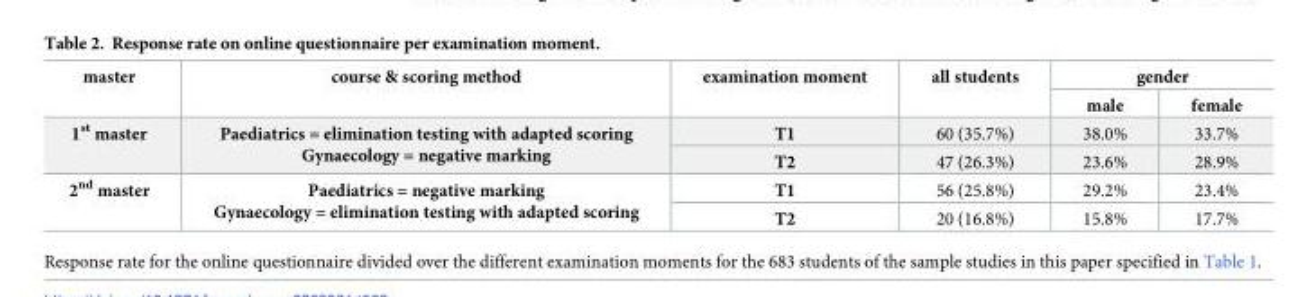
<table><thead><tr><td rowspan="2">master</td><td rowspan="2">course &amp; scoring method</td><td rowspan="2">examination moment</td><td rowspan="2">all students</td><td colspan="2">gender</td></tr><tr><td>male</td><td>female</td></tr></thead><tbody><tr><td rowspan="2">1<sup>st</sup> master</td><td rowspan="2">Paediatrics = elimination testing with adapted scoring Gynaecology = negative marking</td><td>T1</td><td>60 (35.7%)</td><td>38.0%</td><td>33.7%</td></tr><tr><td>T2</td><td>47 (26.3%)</td><td>23.6%</td><td>28.9%</td></tr><tr><td rowspan="2">2<sup>nd</sup> master</td><td rowspan="2">Paediatrics = negative marking Gynaecology = elimination testing with adapted scoring</td><td>T1</td><td>56 (25.8%)</td><td>29.2%</td><td>23.4%</td></tr><tr><td>T2</td><td>20 (16.8%)</td><td>15.8%</td><td>17.7%</td></tr></tbody></table>